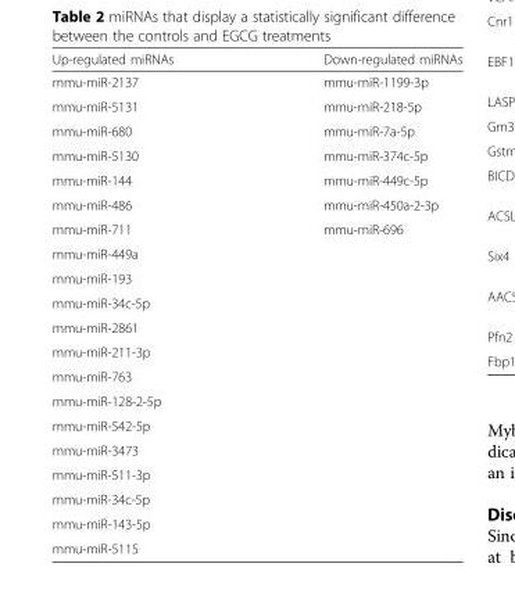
<table><thead><tr><td>Up-regulated miRNAs</td><td>Down-regulated miRNAs</td></tr></thead><tbody><tr><td>mmu-miR-2137</td><td>mmu-miR-1199-3p</td></tr><tr><td>mmu-miR-5131</td><td>mmu-miR-218-5p</td></tr><tr><td>mmu-miR-680</td><td>mmu-miR-7a-5p</td></tr><tr><td>mmu-miR-5130</td><td>mmu-miR-374c-5p</td></tr><tr><td>mmu-miR-144</td><td>mmu-miR-449c-5p</td></tr><tr><td>mmu-miR-486</td><td>mmu-miR-450a-2-3p</td></tr><tr><td>mmu-miR-711</td><td>mmu-miR-696</td></tr><tr><td colspan="2">mmu-miR-449a</td></tr><tr><td colspan="2">mmu-miR-193</td></tr><tr><td colspan="2">mmu-miR-34c-5p</td></tr><tr><td colspan="2">mmu-miR-2861</td></tr><tr><td colspan="2">mmu-miR-211-3p</td></tr><tr><td colspan="2">mmu-miR-763</td></tr><tr><td colspan="2">mmu-miR-128-2-5p</td></tr><tr><td colspan="2">mmu-miR-542-5p</td></tr><tr><td colspan="2">mmu-miR-3473</td></tr><tr><td colspan="2">mmu-miR-511-3p</td></tr><tr><td colspan="2">mmu-miR-34c-5p</td></tr><tr><td colspan="2">mmu-miR-143-5p</td></tr><tr><td>mmu-miR-5115</td><td></td></tr></tbody></table>